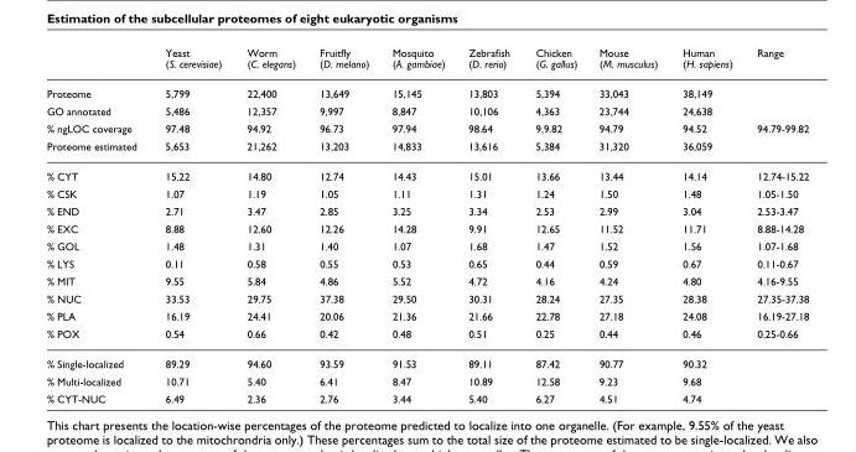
<table><thead><tr><td></td><td>Yeast (S. cerevisiae)</td><td>Worm (C. elegans)</td><td>Fruitfly (D. melano)</td><td>Mosquito (A. gambiae)</td><td>Zebrafish (D. rerio)</td><td>Chicken (G. gallus)</td><td>Mouse (M. musculus)</td><td>Human (H. sapiens)</td><td>Range</td></tr></thead><tbody><tr><td>Proteome</td><td>5,799</td><td>22,400</td><td>13,649</td><td>15,145</td><td>13,803</td><td>5,394</td><td>33,043</td><td>38,149</td><td></td></tr><tr><td>GO annotated</td><td>5,486</td><td>12,357</td><td>9,997</td><td>8,847</td><td>10,106</td><td>4,363</td><td>23,744</td><td>24,638</td><td></td></tr><tr><td>% ngLOC coverage</td><td>97.48</td><td>94.92</td><td>96.73</td><td>97.94</td><td>98.64</td><td>9,9.82</td><td>94.79</td><td>94.52</td><td>94.79-99.82</td></tr><tr><td>Proteome estimated</td><td>5,653</td><td>21,262</td><td>13,203</td><td>14,833</td><td>13,616</td><td>5,384</td><td>31,320</td><td>36,059</td><td></td></tr><tr><td>% CYT</td><td>15.22</td><td>14.80</td><td>12.74</td><td>14.43</td><td>15.01</td><td>13.66</td><td>13.44</td><td>14.14</td><td>12.74-15.22</td></tr><tr><td>% CSK</td><td>1.07</td><td>1.19</td><td>1.05</td><td>1.11</td><td>1.31</td><td>1.24</td><td>1.50</td><td>1.48</td><td>1.05-1.50</td></tr><tr><td>% END</td><td>2.71</td><td>3.47</td><td>2.85</td><td>3.25</td><td>3.34</td><td>2.53</td><td>2.99</td><td>3.04</td><td>2.53-3.47</td></tr><tr><td>% EXC</td><td>8.88</td><td>12.60</td><td>12.26</td><td>14.28</td><td>9.91</td><td>12.65</td><td>11.52</td><td>11.71</td><td>8.88-14.28</td></tr><tr><td>% GOL</td><td>1.48</td><td>1.31</td><td>1.40</td><td>1.07</td><td>1.68</td><td>1.47</td><td>1.52</td><td>1.56</td><td>1.07-1.68</td></tr><tr><td>% LYS</td><td>0.11</td><td>0.58</td><td>0.55</td><td>0.53</td><td>0.65</td><td>0.44</td><td>0.59</td><td>0.67</td><td>0.11-0.67</td></tr><tr><td>% MIT</td><td>9.55</td><td>5.84</td><td>4.86</td><td>5.52</td><td>4.72</td><td>4.16</td><td>4.24</td><td>4.80</td><td>4.16-9.55</td></tr><tr><td>% NUC</td><td>33.53</td><td>29.75</td><td>37.38</td><td>29.50</td><td>30.31</td><td>28.24</td><td>27.35</td><td>28.38</td><td>27.35-37.38</td></tr><tr><td>% PLA</td><td>16.19</td><td>24.41</td><td>20.06</td><td>21.36</td><td>21.66</td><td>22.78</td><td>27.18</td><td>24.08</td><td>16.19-27.18</td></tr><tr><td>% POX</td><td>0.54</td><td>0.66</td><td>0.42</td><td>0.48</td><td>0.51</td><td>0.25</td><td>0.44</td><td>0.46</td><td>0.25-0.66</td></tr><tr><td>% Single-localized</td><td>89.29</td><td>94.60</td><td>93.59</td><td>91.53</td><td>89.11</td><td>87.42</td><td>90.77</td><td>90.32</td><td></td></tr><tr><td>% Multi-localized</td><td>10.71</td><td>5.40</td><td>6.41</td><td>8.47</td><td>10.89</td><td>12.58</td><td>9.23</td><td>9.68</td><td></td></tr><tr><td>% CYT-NUC</td><td>6.49</td><td>2.36</td><td>2.76</td><td>3.44</td><td>5.40</td><td>6.27</td><td>4.51</td><td>4.74</td><td></td></tr></tbody></table>